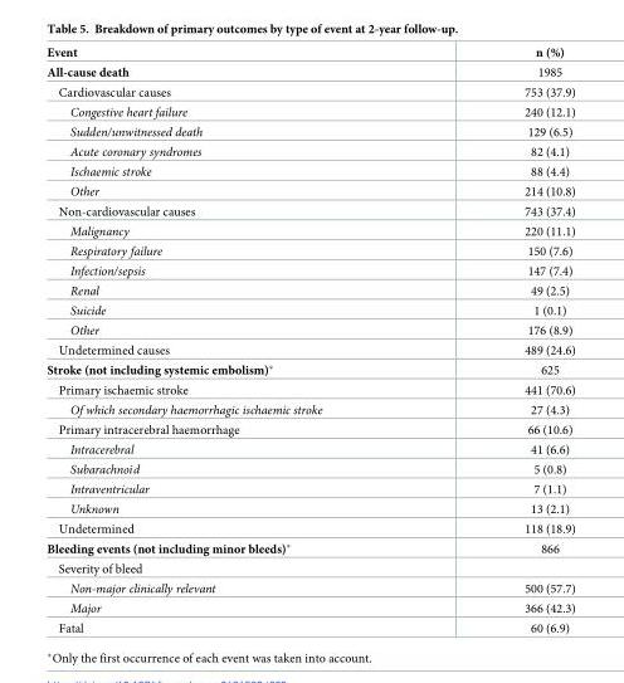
<table><thead><tr><td>Event</td><td>n (%)</td></tr></thead><tbody><tr><td>All-cause death</td><td>1985</td></tr><tr><td>Cardiovascular causes</td><td>753 (37.9)</td></tr><tr><td>Congestive heart failure</td><td>240 (12.1)</td></tr><tr><td>Sudden/unwitnessed death</td><td>129 (6.5)</td></tr><tr><td>Acute coronary syndromes</td><td>82 (4.1)</td></tr><tr><td>Ischaemic stroke</td><td>88 (4.4)</td></tr><tr><td>Other</td><td>214 (10.8)</td></tr><tr><td>Non-cardiovascular causes</td><td>743 (37.4)</td></tr><tr><td>Malignancy</td><td>220 (11.1)</td></tr><tr><td>Respiratory failure</td><td>150 (7.6)</td></tr><tr><td>Infection/sepsis</td><td>147 (7.4)</td></tr><tr><td>Renal</td><td>49 (2.5)</td></tr><tr><td>Suicide</td><td>1 (0.1)</td></tr><tr><td>Other</td><td>176 (8.9)</td></tr><tr><td>Undetermined causes</td><td>489 (24.6)</td></tr><tr><td>Stroke (not including systemic embolism)*</td><td>625</td></tr><tr><td>Primary ischaemic stroke</td><td>441 (70.6)</td></tr><tr><td>Of which secondary haemorrhagic ischaemic stroke</td><td>27 (4.3)</td></tr><tr><td>Primary intracerebral haemorrhage</td><td>66 (10.6)</td></tr><tr><td>Intracerebral</td><td>41 (6.6)</td></tr><tr><td>Subarachnoid</td><td>5 (0.8)</td></tr><tr><td>Intraventricular</td><td>7 (1.1)</td></tr><tr><td>Unknown</td><td>13 (2.1)</td></tr><tr><td>Undetermined</td><td>118 (18.9)</td></tr><tr><td>Bleeding events (not including minor bleeds)*</td><td>866</td></tr><tr><td colspan="2">Severity of bleed</td></tr><tr><td>Non-major clinically relevant</td><td>500 (57.7)</td></tr><tr><td>Major</td><td>366 (42.3)</td></tr><tr><td>Fatal</td><td>60 (6.9)</td></tr></tbody></table>